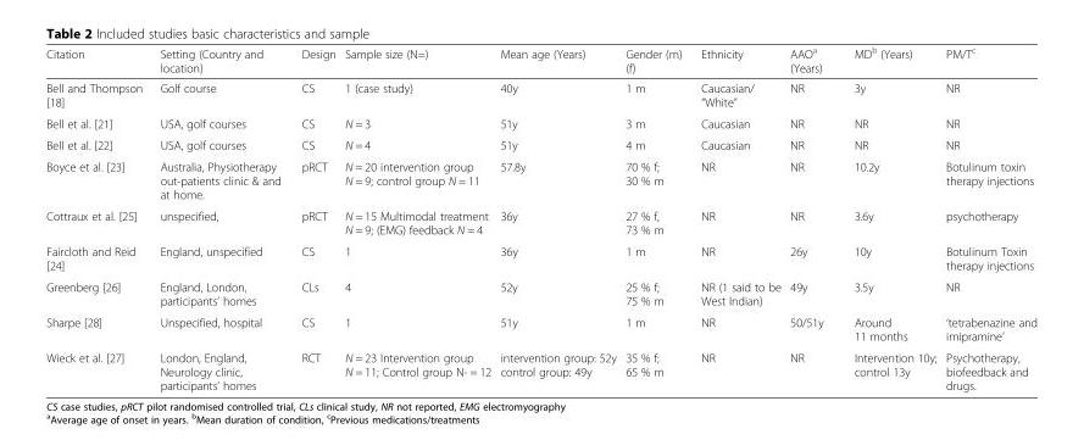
<table><thead><tr><td>Citation</td><td>Setting (Country and location)</td><td>Design</td><td>Sample size (N=)</td><td>Mean age (Years)</td><td>Gender (m) (f)</td><td>Ethnicity</td><td>AAO<sup>a</sup> (Years)</td><td>MD<sup>b</sup> (Years)</td><td>PM/T<sup>c</sup></td></tr></thead><tbody><tr><td>Bell and Thompson [18]</td><td>Golf course</td><td>CS</td><td>1 (case study)</td><td>40y</td><td>1 m</td><td>Caucasian/ “White”</td><td>NR</td><td>3y</td><td>NR</td></tr><tr><td>Bell et al. [21]</td><td>USA, golf courses</td><td>CS</td><td>N = 3</td><td>51y</td><td>3 m</td><td>Caucasian</td><td>NR</td><td>NR</td><td>NR</td></tr><tr><td>Bell et al. [22]</td><td>USA, golf courses</td><td>CS</td><td>N = 4</td><td>51y</td><td>4 m</td><td>Caucasian</td><td>NR</td><td>NR</td><td>NR</td></tr><tr><td>Boyce et al. [23]</td><td>Australia, Physiotherapy out-patients clinic &amp; and at home.</td><td>pRCT</td><td>N = 20 intervention group N = 9; control group N = 11</td><td>57.8y</td><td>70 % f; 30 % m</td><td>NR</td><td>NR</td><td>10.2y</td><td>Botulinum toxin therapy injections</td></tr><tr><td>Cottraux et al. [25]</td><td>unspecified,</td><td>pRCT</td><td>N = 15 Multimodal treatment N = 9; (EMG) feedback N = 4</td><td>36y</td><td>27 % f, 73 % m</td><td>NR</td><td>NR</td><td>3.6y</td><td>psychotherapy</td></tr><tr><td>Faircloth and Reid [24]</td><td>England, unspecified</td><td>CS</td><td>1</td><td>36y</td><td>1 m</td><td>NR</td><td>26y</td><td>10y</td><td>Botulinum Toxin therapy injections</td></tr><tr><td>Greenberg [26]</td><td>England, London, participants’ homes</td><td>CLs</td><td>4</td><td>52y</td><td>25 % f; 75 % m</td><td>NR (1 said to be West Indian)</td><td>49y</td><td>3.5y</td><td>NR</td></tr><tr><td>Sharpe [28]</td><td>Unspecified, hospital</td><td>CS</td><td>1</td><td>51y</td><td>1 m</td><td>NR</td><td>50/51y</td><td>Around 11 months</td><td>‘tetrabenazine and imipramine’</td></tr><tr><td>Wieck et al. [27]</td><td>London, England, Neurology clinic, participants’ homes</td><td>RCT</td><td>N = 23 Intervention group N = 11; Control group N- = 12</td><td>intervention group: 52y control group: 49y</td><td>35 % f; 65 % m</td><td>NR</td><td>NR</td><td>Intervention 10y; control 13y</td><td>Psychotherapy, biofeedback and drugs.</td></tr></tbody></table>